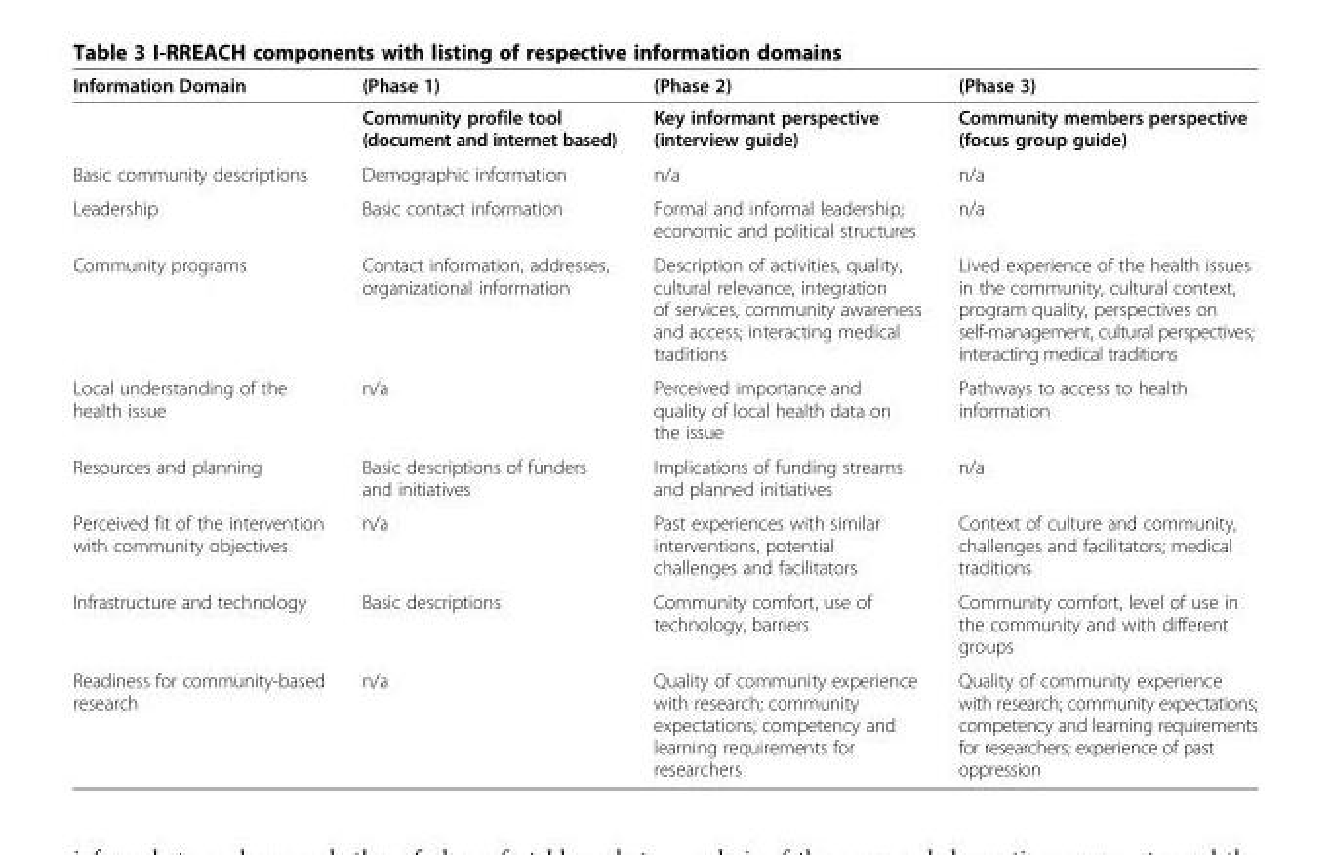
<table><thead><tr><td>Information Domain</td><td>(Phase 1)</td><td>(Phase 2)</td><td>(Phase 3)</td></tr></thead><tbody><tr><td></td><td>Community profile tool (document and internet based)</td><td>Key informant perspective (interview guide)</td><td>Community members perspective (focus group guide)</td></tr><tr><td>Basic community descriptions</td><td>Demographic information</td><td>n/a</td><td>n/a</td></tr><tr><td>Leadership</td><td>Basic contact information</td><td>Formal and informal leadership; economic and political structures</td><td>n/a</td></tr><tr><td>Community programs</td><td>Contact information, addresses, organizational information</td><td>Description of activities, quality, cultural relevance, integration of services, community awareness and access; interacting medical traditions</td><td>Lived experience of the health issues in the community, cultural context, program quality, perspectives on self-management, cultural perspectives; interacting medical traditions</td></tr><tr><td>Local understanding of the health issue</td><td>n/a</td><td>Perceived importance and quality of local health data on the issue</td><td>Pathways to access to health information</td></tr><tr><td>Resources and planning</td><td>Basic descriptions of funders and initiatives</td><td>Implications of funding streams and planned initiatives</td><td>n/a</td></tr><tr><td>Perceived fit of the intervention with community objectives</td><td>n/a</td><td>Past experiences with similar interventions, potential challenges and facilitators</td><td>Context of culture and community, challenges and facilitators; medical traditions</td></tr><tr><td>Infrastructure and technology</td><td>Basic descriptions</td><td>Community comfort, use of technology, barriers</td><td>Community comfort, level of use in the community and with different groups</td></tr><tr><td>Readiness for community-based research</td><td>n/a</td><td>Quality of community experience with research; community expectations; competency and learning requirements for researchers</td><td>Quality of community experience with research; community expectations; competency and learning requirements for researchers; experience of past oppression</td></tr></tbody></table>